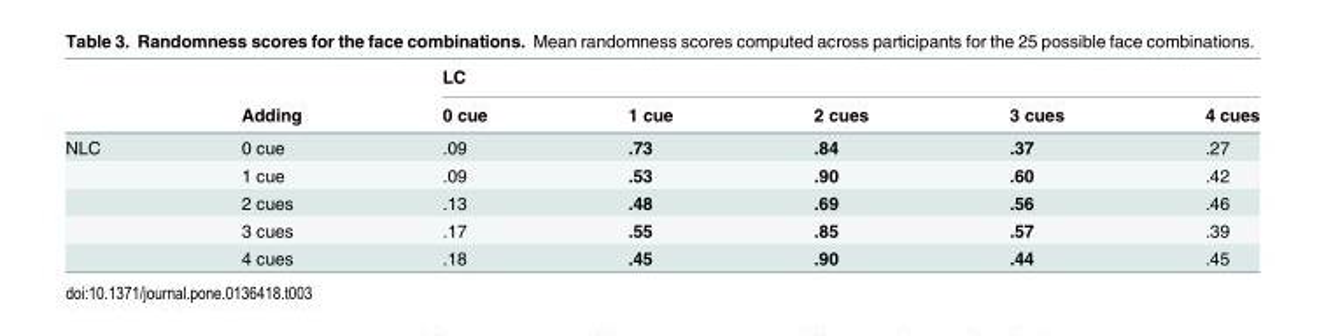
<table><thead><tr><td rowspan="2"></td><td rowspan="2">Adding</td><td colspan="5">LC</td></tr><tr><td>0 cue</td><td>1 cue</td><td>2 cues</td><td>3 cues</td><td>4 cues</td></tr></thead><tbody><tr><td rowspan="5">NLC</td><td>0 cue</td><td>.09</td><td>.73</td><td>.84</td><td>.37</td><td>.27</td></tr><tr><td>1 cue</td><td>.09</td><td>.53</td><td>.90</td><td>.60</td><td>.42</td></tr><tr><td>2 cues</td><td>.13</td><td>.48</td><td>.69</td><td>.56</td><td>.46</td></tr><tr><td>3 cues</td><td>.17</td><td>.55</td><td>.85</td><td>.57</td><td>.39</td></tr><tr><td>4 cues</td><td>.18</td><td>.45</td><td>.90</td><td>.44</td><td>.45</td></tr></tbody></table>